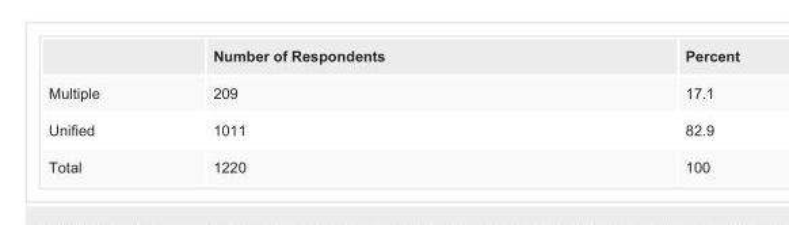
<table><thead><tr><td></td><td>Number of Respondents</td><td>Percent</td></tr></thead><tbody><tr><td>Multiple</td><td>209</td><td>17.1</td></tr><tr><td>Unified</td><td>1011</td><td>82.9</td></tr><tr><td>Total</td><td>1220</td><td>100</td></tr></tbody></table>